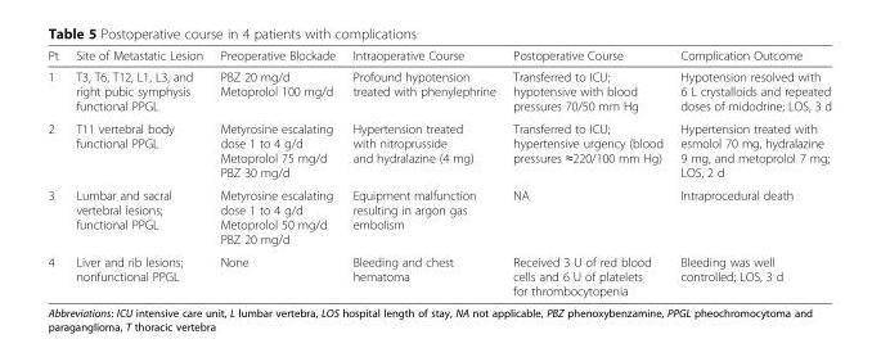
<table><thead><tr><td>Pt</td><td>Site of Metastatic Lesion</td><td>Preoperative Blockade</td><td>Intraoperative Course</td><td>Postoperative Course</td><td>Complication Outcome</td></tr></thead><tbody><tr><td>1</td><td>T3, T6, T12, L1, L3, and right pubic symphysis functional PPGL</td><td>PBZ 20 mg/d Metoprolol 100 mg/d</td><td>Profound hypotension treated with phenylephrine</td><td>Transferred to ICU; hypotensive with blood pressures 70/50 mm Hg</td><td>Hypotension resolved with 6 L crystalloids and repeated doses of midodrine; LOS, 3 d</td></tr><tr><td>2</td><td>T11 vertebral body functional PPGL</td><td>Metyrosine escalating dose 1 to 4 g/d Metoprolol 75 mg/d PBZ 30 mg/d</td><td>Hypertension treated with nitroprusside and hydralazine (4 mg)</td><td>Transferred to ICU; hypertensive urgency (blood pressures ≈220/100 mm Hg)</td><td>Hypertension treated with esmolol 70 mg, hydralazine 9 mg, and metoprolol 7 mg; LOS, 2 d</td></tr><tr><td>3</td><td>Lumbar and sacral vertebral lesions; functional PPGL</td><td>Metyrosine escalating dose 1 to 4 g/d Metoprolol 50 mg/d PBZ 20 mg/d</td><td>Equipment malfunction resulting in argon gas embolism</td><td>NA</td><td>Intraprocedural death</td></tr><tr><td>4</td><td>Liver and rib lesions; nonfunctional PPGL</td><td>None</td><td>Bleeding and chest hematoma</td><td>Received 3 U of red blood cells and 6 U of platelets for thrombocytopenia</td><td>Bleeding was well controlled; LOS, 3 d</td></tr></tbody></table>